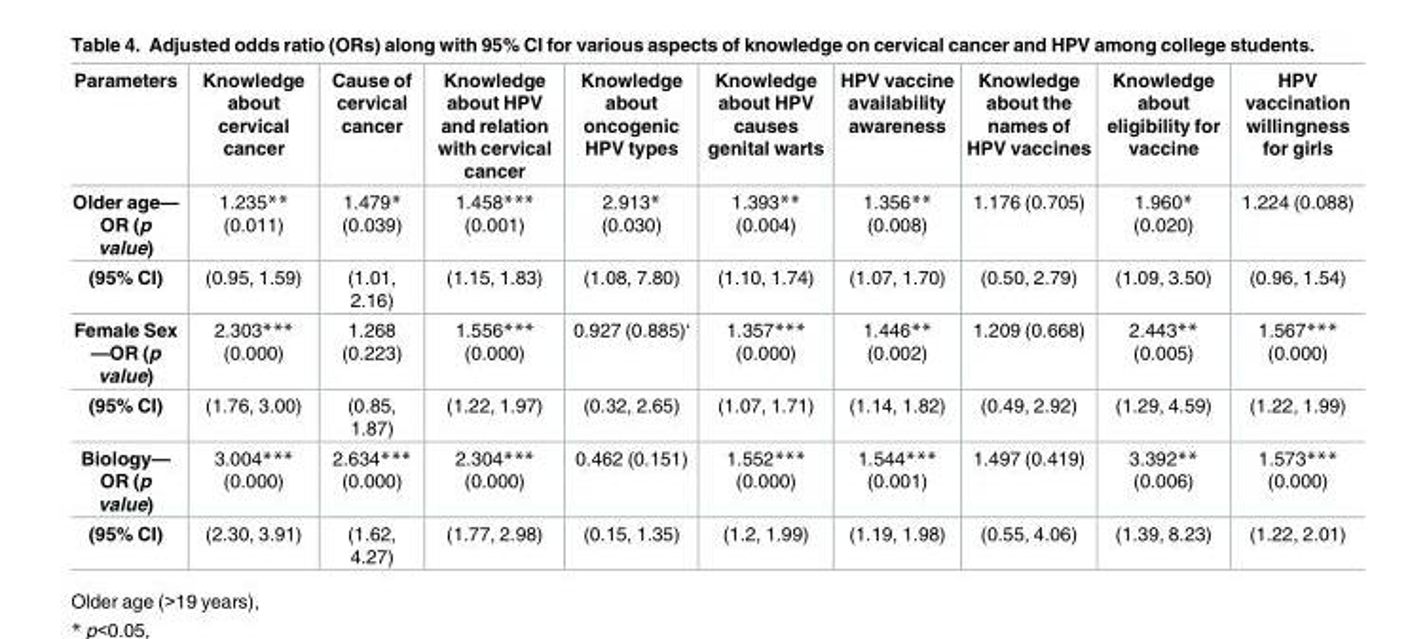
<table><thead><tr><td>Parameters</td><td>Knowledge about cervical cancer</td><td>Cause of cervical cancer</td><td>Knowledge about HPV and relation with cervical cancer</td><td>Knowledge about oncogenic HPV types</td><td>Knowledge about HPV causes genital warts</td><td>HPV vaccine availability awareness</td><td>Knowledge about the names of HPV vaccines</td><td>Knowledge about eligibility for vaccine</td><td>HPV vaccination willingness for girls</td></tr></thead><tbody><tr><td>Older age— OR (p value)</td><td>1.235** (0.011)</td><td>1.479* (0.039)</td><td>1.458*** (0.001)</td><td>2.913* (0.030)</td><td>1.393** (0.004)</td><td>1.356** (0.008)</td><td>1.176 (0.705)</td><td>1.960* (0.020)</td><td>1.224 (0.088)</td></tr><tr><td>(95% CI)</td><td>(0.95, 1.59)</td><td>(1.01, 2.16)</td><td>(1.15, 1.83)</td><td>(1.08, 7.80)</td><td>(1.10, 1.74)</td><td>(1.07, 1.70)</td><td>(0.50, 2.79)</td><td>(1.09, 3.50)</td><td>(0.96, 1.54)</td></tr><tr><td>Female Sex —OR (p value)</td><td>2.303*** (0.000)</td><td>1.268 (0.223)</td><td>1.556*** (0.000)</td><td>0.927 (0.885)‘</td><td>1.357*** (0.000)</td><td>1.446** (0.002)</td><td>1.209 (0.668)</td><td>2.443** (0.005)</td><td>1.567*** (0.000)</td></tr><tr><td>(95% CI)</td><td>(1.76, 3.00)</td><td>(0.85, 1.87)</td><td>(1.22, 1.97)</td><td>(0.32, 2.65)</td><td>(1.07, 1.71)</td><td>(1.14, 1.82)</td><td>(0.49, 2.92)</td><td>(1.29, 4.59)</td><td>(1.22, 1.99)</td></tr><tr><td>Biology— OR (p value)</td><td>3.004*** (0.000)</td><td>2.634*** (0.000)</td><td>2.304*** (0.000)</td><td>0.462 (0.151)</td><td>1.552*** (0.000)</td><td>1.544*** (0.001)</td><td>1.497 (0.419)</td><td>3.392** (0.006)</td><td>1.573*** (0.000)</td></tr><tr><td>(95% CI)</td><td>(2.30, 3.91)</td><td>(1.62, 4.27)</td><td>(1.77, 2.98)</td><td>(0.15, 1.35)</td><td>(1.2, 1.99)</td><td>(1.19, 1.98)</td><td>(0.55, 4.06)</td><td>(1.39, 8.23)</td><td>(1.22, 2.01)</td></tr></tbody></table>